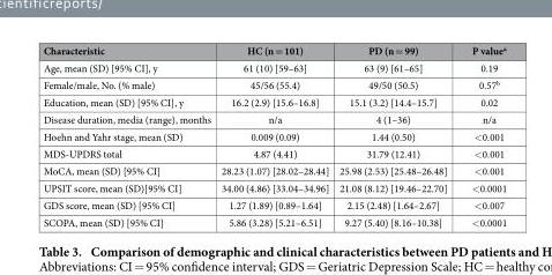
<table><thead><tr><td>Characteristic</td><td>HC (n = 101)</td><td>PD (n = 99)</td><td>P value<sup>a</sup></td></tr></thead><tbody><tr><td>Age, mean (SD) [95% CI], y</td><td>61 (10) [59–63]</td><td>63 (9) [61–65]</td><td>0.19</td></tr><tr><td>Female/male, No. (% male)</td><td>45/56 (55.4)</td><td>49/50 (50.5)</td><td>0.57<sup>b</sup></td></tr><tr><td>Education, mean (SD) [95% CI], y</td><td>16.2 (2.9) [15.6–16.8]</td><td>15.1 (3.2) [14.4–15.7]</td><td>0.02</td></tr><tr><td>Disease duration, media (range), months</td><td>n/a</td><td>4 (1–36)</td><td>n/a</td></tr><tr><td>Hoehn and Yahr stage, mean (SD)</td><td>0.009 (0.09)</td><td>1.44 (0.50)</td><td>&lt; 0.001</td></tr><tr><td>MDS-UPDRS total</td><td>4.87 (4.41)</td><td>31.79 (12.41)</td><td>&lt; 0.001</td></tr><tr><td>MoCA, mean (SD) [95% CI]</td><td>28.23 (1.07) [28.02–28.44]</td><td>25.98 (2.53) [25.48–26.48]</td><td>&lt; 0.001</td></tr><tr><td>UPSIT score, mean (SD)[95% CI]</td><td>34.00 (4.86) [33.04–34.96]</td><td>21.08 (8.12) [19.46–22.70]</td><td>&lt; 0.0001</td></tr><tr><td>GDS score, mean (SD) [95% CI]</td><td>1.27 (1.89) [0.89–1.64]</td><td>2.15 (2.48) [1.64–2.67]</td><td>&lt; 0.007</td></tr><tr><td>SCOPA, mean (SD) [95% CI]</td><td>5.86 (3.28) [5.21–6.51]</td><td>9.27 (5.40) [8.16–10.38]</td><td>&lt; 0.0001</td></tr></tbody></table>